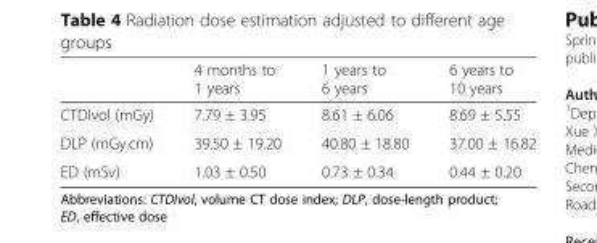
<table><thead><tr><td></td><td>4 months to 1 years</td><td>1 years to 6 years</td><td>6 years to 10 years</td></tr></thead><tbody><tr><td>CTDIvol (mGy)</td><td>7.79 ± 3.95</td><td>8.61 ± 6.06</td><td>8.69 ± 5.55</td></tr><tr><td>DLP (mGy.cm)</td><td>39.50 ± 19.20</td><td>40.80 ± 18.80</td><td>37.00 ± 16.82</td></tr><tr><td>ED (mSv)</td><td>1.03 ± 0.50</td><td>0.73 ± 0.34</td><td>0.44 ± 0.20</td></tr></tbody></table>